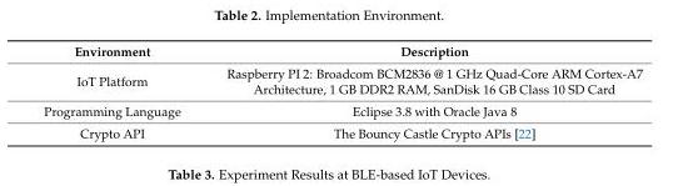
<table><thead><tr><td>Environment</td><td>Description</td></tr></thead><tbody><tr><td>IoT Platform</td><td>Raspberry PI 2: Broadcom BCM2836 @ 1 GHz Quad-Core ARM Cortex-A7 Architecture, 1 GB DDR2 RAM, SanDisk 16 GB Class 10 SD Card</td></tr><tr><td>Programming Language</td><td>Eclipse 3.8 with Oracle Java 8</td></tr><tr><td>Crypto API</td><td>The Bouncy Castle Crypto APIs [22]</td></tr></tbody></table>